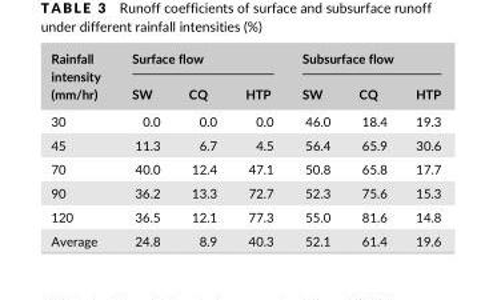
<table><thead><tr><td rowspan="2">Rainfall intensity (mm/hr)</td><td colspan="3">Surface flow</td><td colspan="3">Subsurface flow</td></tr><tr><td>SW</td><td>CQ</td><td>HTP</td><td>SW</td><td>CQ</td><td>HTP</td></tr></thead><tbody><tr><td>30</td><td>0.0</td><td>0.0</td><td>0.0</td><td>46.0</td><td>18.4</td><td>19.3</td></tr><tr><td>45</td><td>11.3</td><td>6.7</td><td>4.5</td><td>56.4</td><td>65.9</td><td>30.6</td></tr><tr><td>70</td><td>40.0</td><td>12.4</td><td>47.1</td><td>50.8</td><td>65.8</td><td>17.7</td></tr><tr><td>90</td><td>36.2</td><td>13.3</td><td>72.7</td><td>52.3</td><td>75.6</td><td>15.3</td></tr><tr><td>120</td><td>36.5</td><td>12.1</td><td>77.3</td><td>55.0</td><td>81.6</td><td>14.8</td></tr><tr><td>Average</td><td>24.8</td><td>8.9</td><td>40.3</td><td>52.1</td><td>61.4</td><td>19.6</td></tr></tbody></table>